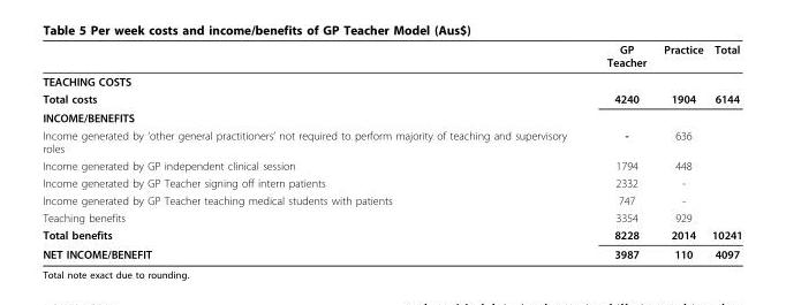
<table><thead><tr><td></td><td>GP Teacher</td><td>Practice</td><td>Total</td></tr></thead><tbody><tr><td colspan="4">TEACHING COSTS</td></tr><tr><td>Total costs</td><td>4240</td><td>1904</td><td>6144</td></tr><tr><td colspan="4">INCOME/BENEFITS</td></tr><tr><td>Income generated by ‘other general practitioners’ not required to perform majority of teaching and supervisory roles</td><td>-</td><td>636</td><td></td></tr><tr><td>Income generated by GP independent clinical session</td><td>1794</td><td>448</td><td></td></tr><tr><td>Income generated by GP Teacher signing off intern patients</td><td>2332</td><td>-</td><td></td></tr><tr><td>Income generated by GP Teacher teaching medical students with patients</td><td>747</td><td>-</td><td></td></tr><tr><td>Teaching benefits</td><td>3354</td><td>929</td><td></td></tr><tr><td>Total benefits</td><td>8228</td><td>2014</td><td>10241</td></tr><tr><td>NET INCOME/BENEFIT</td><td>3987</td><td>110</td><td>4097</td></tr></tbody></table>